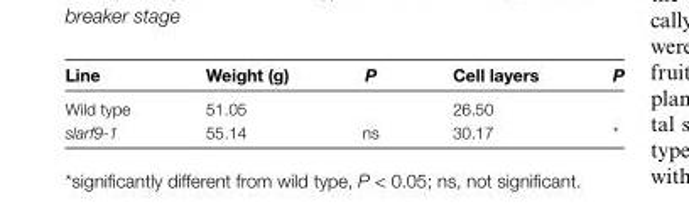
<table><thead><tr><td>Line</td><td>Weight (g)</td><td>P</td><td>Cell layers</td><td>P</td></tr></thead><tbody><tr><td>Wild type</td><td>51.05</td><td></td><td>26.50</td><td></td></tr><tr><td>slarf9-1</td><td>55.14</td><td>ns</td><td>30.17</td><td>*</td></tr></tbody></table>